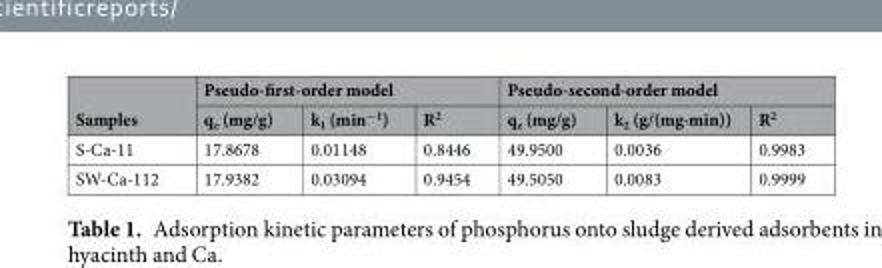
<table><thead><tr><td rowspan="2">Samples</td><td colspan="3">Pseudo-first-order model</td><td colspan="3">Pseudo-second-order model</td></tr><tr><td>q<sub>e</sub> (mg/g)</td><td>k<sub>1</sub> (min<sup>−1</sup>)</td><td>R<sup>2</sup></td><td>q<sub>e</sub> (mg/g)</td><td>k<sub>2</sub> (g/(mg·min))</td><td>R<sup>2</sup></td></tr></thead><tbody><tr><td>S-Ca-11</td><td>17.8678</td><td>0.01148</td><td>0.8446</td><td>49.9500</td><td>0.0036</td><td>0.9983</td></tr><tr><td>SW-Ca-112</td><td>17.9382</td><td>0.03094</td><td>0.9454</td><td>49.5050</td><td>0.0083</td><td>0.9999</td></tr></tbody></table>